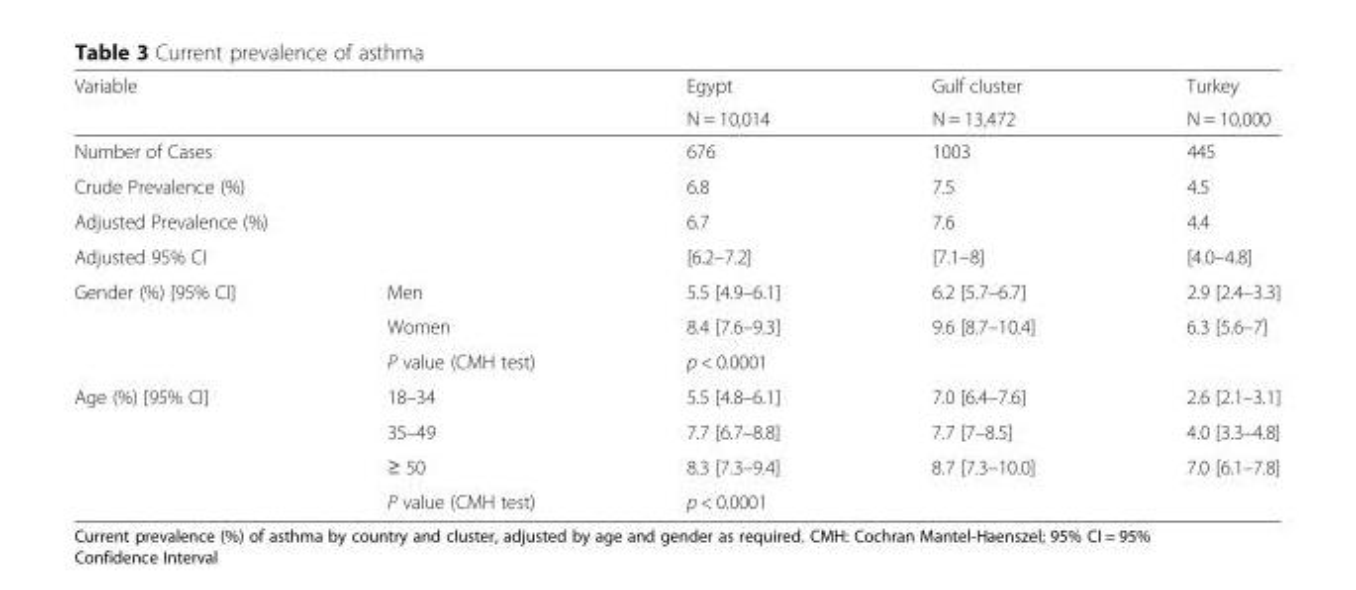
<table><thead><tr><td rowspan="2" colspan="2">Variable</td><td rowspan="2">Egypt N = 10,014</td><td rowspan="2">Gulf cluster N = 13,472</td><td rowspan="2">Turkey N = 10,000</td></tr><tr></tr></thead><tbody><tr><td colspan="2">Number of Cases</td><td>676</td><td>1003</td><td>445</td></tr><tr><td colspan="2">Crude Prevalence (%)</td><td>6.8</td><td>7.5</td><td>4.5</td></tr><tr><td colspan="2">Adjusted Prevalence (%)</td><td>6.7</td><td>7.6</td><td>4.4</td></tr><tr><td colspan="2">Adjusted 95% CI</td><td>[6.2–7.2]</td><td>[7.1–8]</td><td>[4.0–4.8]</td></tr><tr><td rowspan="3">Gender (%) [95% CI]</td><td>Men</td><td>5.5 [4.9–6.1]</td><td>6.2 [5.7–6.7]</td><td>2.9 [2.4–3.3]</td></tr><tr><td>Women</td><td>8.4 [7.6–9.3]</td><td>9.6 [8.7–10.4]</td><td>6.3 [5.6–7]</td></tr><tr><td>P value (CMH test)</td><td colspan="3">p &lt; 0.0001</td></tr><tr><td rowspan="4">Age (%) [95% CI]</td><td>18–34</td><td>5.5 [4.8–6.1]</td><td>7.0 [6.4–7.6]</td><td>2.6 [2.1–3.1]</td></tr><tr><td>35–49</td><td>7.7 [6.7–8.8]</td><td>7.7 [7–8.5]</td><td>4.0 [3.3–4.8]</td></tr><tr><td>≥ 50</td><td>8.3 [7.3–9.4]</td><td>8.7 [7.3–10.0]</td><td>7.0 [6.1–7.8]</td></tr><tr><td>P value (CMH test)</td><td colspan="3">p &lt; 0.0001</td></tr></tbody></table>